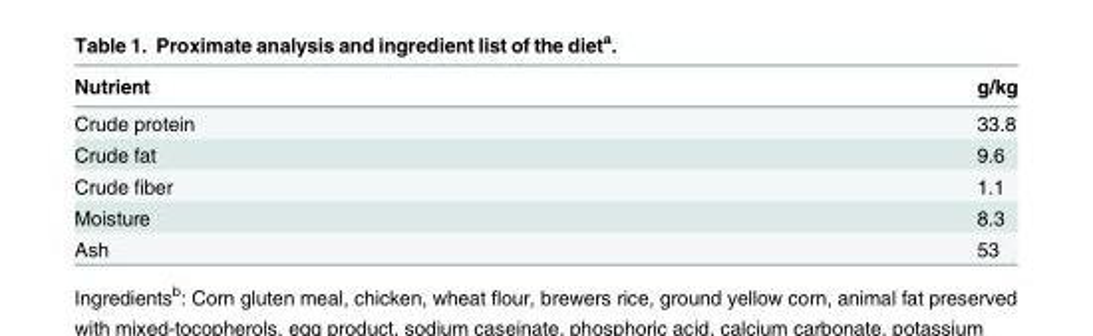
<table><thead><tr><td>Nutrient</td><td>g/kg</td></tr></thead><tbody><tr><td>Crude protein</td><td>33.8</td></tr><tr><td>Crude fat</td><td>9.6</td></tr><tr><td>Crude fiber</td><td>1.1</td></tr><tr><td>Moisture</td><td>8.3</td></tr><tr><td>Ash</td><td>53</td></tr></tbody></table>